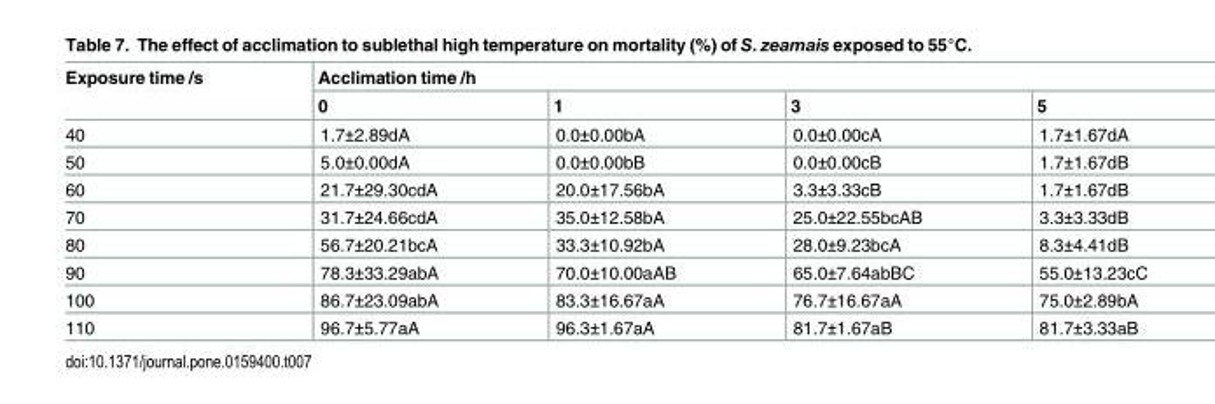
<table><thead><tr><td rowspan="2">Exposure time /s</td><td colspan="4">Acclimation time /h</td></tr><tr><td>0</td><td>1</td><td>3</td><td>5</td></tr></thead><tbody><tr><td>40</td><td>1.7±2.89dA</td><td>0.0±0.00bA</td><td>0.0±0.00cA</td><td>1.7±1.67dA</td></tr><tr><td>50</td><td>5.0±0.00dA</td><td>0.0±0.00bB</td><td>0.0±0.00cB</td><td>1.7±1.67dB</td></tr><tr><td>60</td><td>21.7±29.30cdA</td><td>20.0±17.56bA</td><td>3.3±3.33cB</td><td>1.7±1.67dB</td></tr><tr><td>70</td><td>31.7±24.66cdA</td><td>35.0±12.58bA</td><td>25.0±22.55bcAB</td><td>3.3±3.33dB</td></tr><tr><td>80</td><td>56.7±20.21bcA</td><td>33.3±10.92bA</td><td>28.0±9.23bcA</td><td>8.3±4.41dB</td></tr><tr><td>90</td><td>78.3±33.29abA</td><td>70.0±10.00aAB</td><td>65.0±7.64abBC</td><td>55.0±13.23cC</td></tr><tr><td>100</td><td>86.7±23.09abA</td><td>83.3±16.67aA</td><td>76.7±16.67aA</td><td>75.0±2.89bA</td></tr><tr><td>110</td><td>96.7±5.77aA</td><td>96.3±1.67aA</td><td>81.7±1.67aB</td><td>81.7±3.33aB</td></tr></tbody></table>